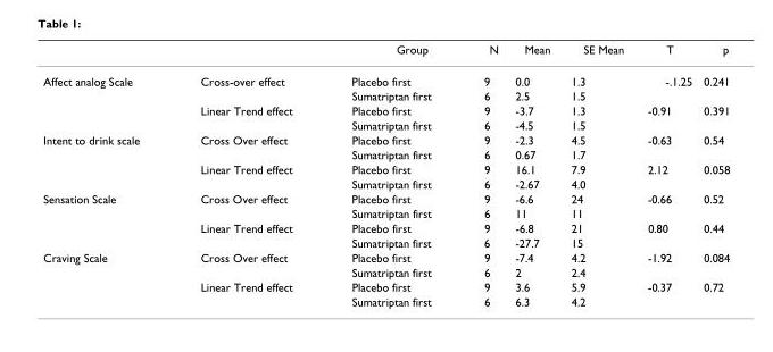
<table><thead><tr><td></td><td></td><td>Group</td><td>N</td><td>Mean</td><td>SE Mean</td><td>T</td><td>p</td></tr></thead><tbody><tr><td rowspan="4">Affect analog Scale</td><td>Cross-over effect</td><td>Placebo first</td><td>9</td><td>0.0</td><td>1.3</td><td>-.1.25</td><td>0.241</td></tr><tr><td></td><td>Sumatriptan first</td><td>6</td><td>2.5</td><td>1.5</td><td></td><td></td></tr><tr><td>Linear Trend effect</td><td>Placebo first</td><td>9</td><td>-3.7</td><td>1.3</td><td>-0.91</td><td>0.391</td></tr><tr><td></td><td>Sumatriptan first</td><td>6</td><td>-4.5</td><td>1.5</td><td></td><td></td></tr><tr><td rowspan="4">Intent to drink scale</td><td>Cross Over effect</td><td>Placebo first</td><td>9</td><td>-2.3</td><td>4.5</td><td>-0.63</td><td>0.54</td></tr><tr><td></td><td>Sumatriptan first</td><td>6</td><td>0.67</td><td>1.7</td><td></td><td></td></tr><tr><td>Linear Trend effect</td><td>Placebo first</td><td>9</td><td>16.1</td><td>7.9</td><td>2.12</td><td>0.058</td></tr><tr><td></td><td>Sumatriptan first</td><td>6</td><td>-2.67</td><td>4.0</td><td></td><td></td></tr><tr><td rowspan="4">Sensation Scale</td><td>Cross Over effect</td><td>Placebo first</td><td>9</td><td>-6.6</td><td>24</td><td>-0.66</td><td>0.52</td></tr><tr><td></td><td>Sumatriptan first</td><td>6</td><td>11</td><td>11</td><td></td><td></td></tr><tr><td>Linear Trend effect</td><td>Placebo first</td><td>9</td><td>-6.8</td><td>21</td><td>0.80</td><td>0.44</td></tr><tr><td></td><td>Sumatriptan first</td><td>6</td><td>-27.7</td><td>15</td><td></td><td></td></tr><tr><td rowspan="4">Craving Scale</td><td>Cross Over effect</td><td>Placebo first</td><td>9</td><td>-7.4</td><td>4.2</td><td>-1.92</td><td>0.084</td></tr><tr><td></td><td>Sumatriptan first</td><td>6</td><td>2</td><td>2.4</td><td></td><td></td></tr><tr><td>Linear Trend effect</td><td>Placebo first</td><td>9</td><td>3.6</td><td>5.9</td><td>-0.37</td><td>0.72</td></tr><tr><td></td><td>Sumatriptan first</td><td>6</td><td>6.3</td><td>4.2</td><td></td><td></td></tr></tbody></table>